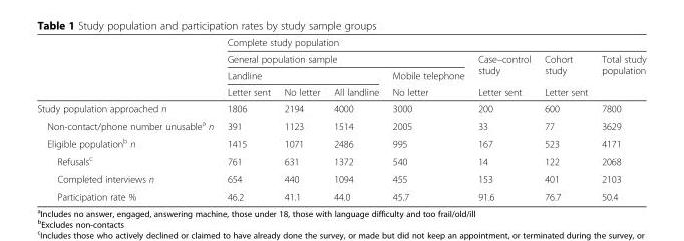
<table><thead><tr><td rowspan="4"></td><td colspan="7">Complete study population</td></tr><tr><td colspan="4">General population sample</td><td rowspan="3">Case–control study Letter sent</td><td rowspan="3">Cohort study Letter sent</td><td rowspan="3">Total study population</td></tr><tr><td colspan="3">Landline</td><td rowspan="2">Mobile telephone No letter</td></tr><tr><td>Letter sent</td><td>No letter</td><td>All landline</td></tr></thead><tbody><tr><td>Study population approached n</td><td>1806</td><td>2194</td><td>4000</td><td>3000</td><td>200</td><td>600</td><td>7800</td></tr><tr><td>Non-contact/phone number unusable<sup>a</sup> n</td><td>391</td><td>1123</td><td>1514</td><td>2005</td><td>33</td><td>77</td><td>3629</td></tr><tr><td>Eligible population<sup>b</sup> n</td><td>1415</td><td>1071</td><td>2486</td><td>995</td><td>167</td><td>523</td><td>4171</td></tr><tr><td>Refusals<sup>c</sup></td><td>761</td><td>631</td><td>1372</td><td>540</td><td>14</td><td>122</td><td>2068</td></tr><tr><td>Completed interviews n</td><td>654</td><td>440</td><td>1094</td><td>455</td><td>153</td><td>401</td><td>2103</td></tr><tr><td>Participation rate %</td><td>46.2</td><td>41.1</td><td>44.0</td><td>45.7</td><td>91.6</td><td>76.7</td><td>50.4</td></tr></tbody></table>